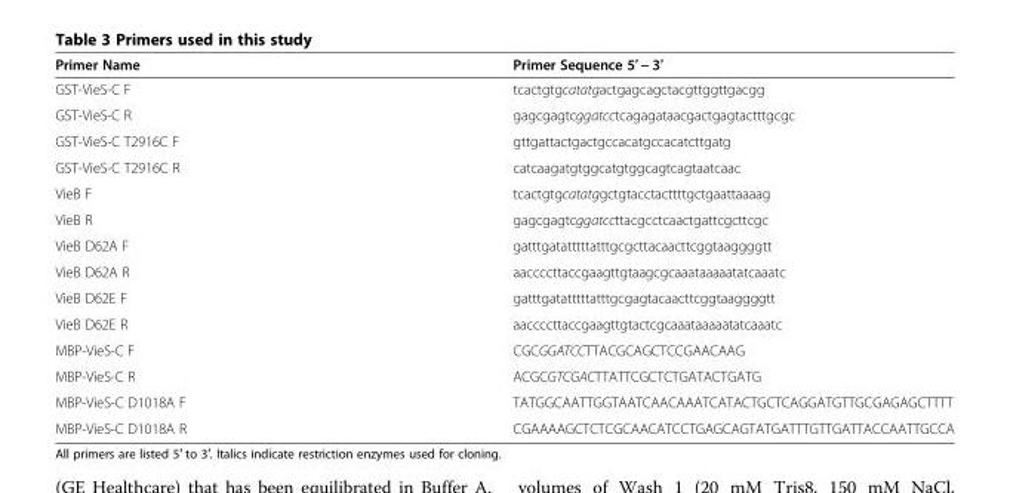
<table><thead><tr><td>Primer Name</td><td>Primer Sequence 5′ − 3′</td></tr></thead><tbody><tr><td>GST-VieS-C F</td><td>tcactgtgcatatgactgagcagctacgttggttgacgg</td></tr><tr><td>GST-VieS-C R</td><td>gagcgagtcggatcctcagagataacgactgagtactttgcgc</td></tr><tr><td>GST-VieS-C T2916C F</td><td>gttgattactgactgccacatgccacatcttgatg</td></tr><tr><td>GST-VieS-C T2916C R</td><td>catcaagatgtggcatgtggcagtcagtaatcaac</td></tr><tr><td>VieB F</td><td>tcactgtgcatatggctgtacctacttttgctgaattaaaag</td></tr><tr><td>VieB R</td><td>gagcgagtcggatccttacgcctcaactgattcgcttcgc</td></tr><tr><td>VieB D62A F</td><td>gatttgatatttttatttgcgcttacaacttcggtaaggggtt</td></tr><tr><td>VieB D62A R</td><td>aaccccttaccgaagttgtaagcgcaaataaaaatatcaaatc</td></tr><tr><td>VieB D62E F</td><td>gatttgatatttttatttgcgagtacaacttcggtaaggggtt</td></tr><tr><td>VieB D62E R</td><td>aaccccttaccgaagttgtactcgcaaataaaaatatcaaatc</td></tr><tr><td>MBP-VieS-C F</td><td>CGCGGATCCTTACGCAGCTCCGAACAAG</td></tr><tr><td>MBP-VieS-C R</td><td>ACGCGTCGACTTATTCGCTCTGATACTGATG</td></tr><tr><td>MBP-VieS-C D1018A F</td><td>TATGGCAATTGGTAATCAACAAATCATACTGCTCAGGATGTTGCGAGAGCTTTT</td></tr><tr><td>MBP-VieS-C D1018A R</td><td>CGAAAAGCTCTCGCAACATCCTGAGCAGTATGATTTGTTGATTACCAATTGCCA</td></tr></tbody></table>